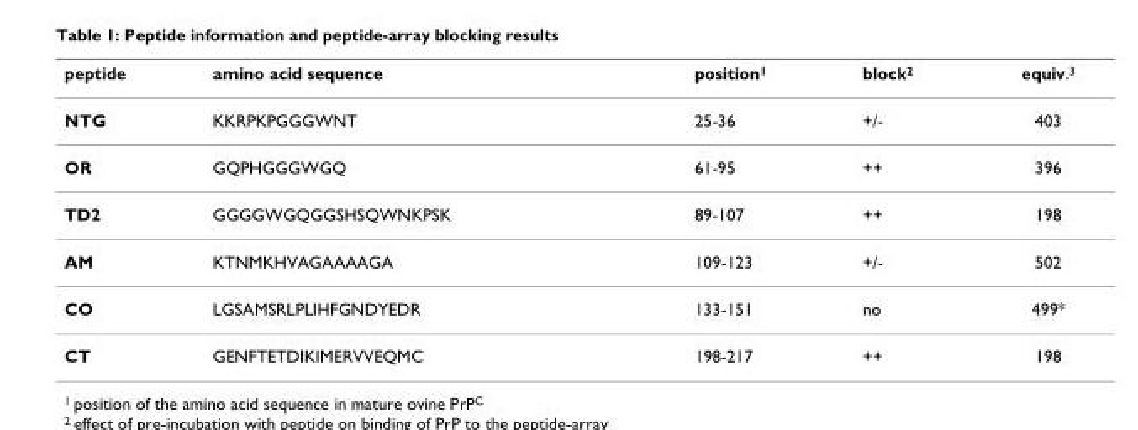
<table><thead><tr><td>peptide</td><td>amino acid sequence</td><td>position<sup>1</sup></td><td>block<sup>2</sup></td><td>equiv.<sup>3</sup></td></tr></thead><tbody><tr><td>NTG</td><td>KKRPKPGGGWNT</td><td>25-36</td><td>+/-</td><td>403</td></tr><tr><td>OR</td><td>GQPHGGGWGQ</td><td>61-95</td><td>++</td><td>396</td></tr><tr><td>TD2</td><td>GGGGWGQGGSHSQWNKPSK</td><td>89-107</td><td>++</td><td>198</td></tr><tr><td>AM</td><td>KTNMKHVAGAAAAGA</td><td>109-123</td><td>+/-</td><td>502</td></tr><tr><td>CO</td><td>LGSAMSRLPLIHFGNDYEDR</td><td>133-151</td><td>no</td><td>499*</td></tr><tr><td>CT</td><td>GENFTETDIKIMERVVEQMC</td><td>198-217</td><td>++</td><td>198</td></tr></tbody></table>